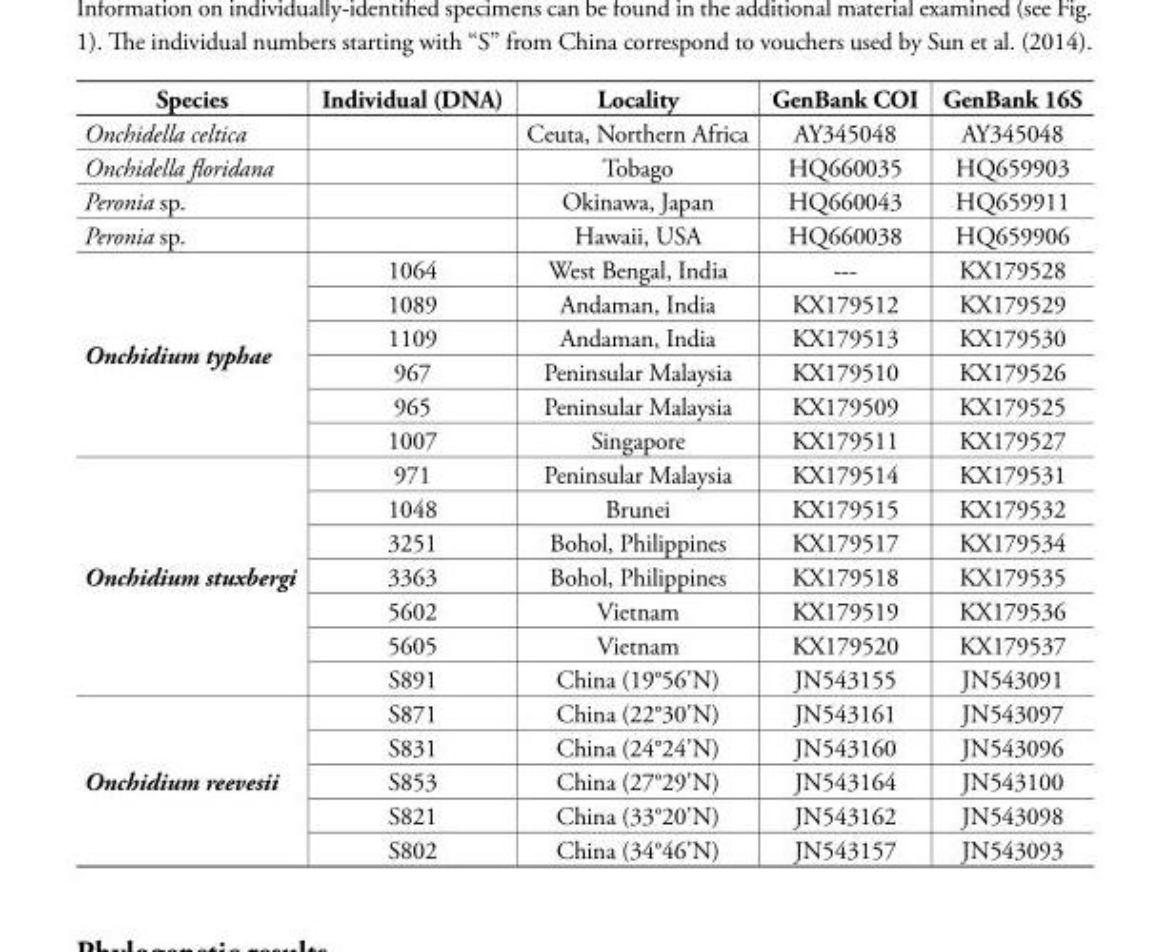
<table><thead><tr><td>Species</td><td>Individual (DNA)</td><td>Locality</td><td>GenBank COI</td><td>GenBank 16S</td></tr></thead><tbody><tr><td>Onchidella celtica</td><td></td><td>Ceuta, Northern Africa</td><td>AY345048</td><td>AY345048</td></tr><tr><td>Onchidella floridana</td><td></td><td>Tobago</td><td>HQ660035</td><td>HQ659903</td></tr><tr><td>Peronia sp.</td><td></td><td>Okinawa, Japan</td><td>HQ660043</td><td>HQ659911</td></tr><tr><td>Peronia sp.</td><td></td><td>Hawaii, USA</td><td>HQ660038</td><td>HQ659906</td></tr><tr><td rowspan="6">Onchidium typhae</td><td>1064</td><td>West Bengal, India</td><td>---</td><td>KX179528</td></tr><tr><td>1089</td><td>Andaman, India</td><td>KX179512</td><td>KX179529</td></tr><tr><td>1109</td><td>Andaman, India</td><td>KX179513</td><td>KX179530</td></tr><tr><td>967</td><td>Peninsular Malaysia</td><td>KX179510</td><td>KX179526</td></tr><tr><td>965</td><td>Peninsular Malaysia</td><td>KX179509</td><td>KX179525</td></tr><tr><td>1007</td><td>Singapore</td><td>KX179511</td><td>KX179527</td></tr><tr><td rowspan="7">Onchidium stuxbergi</td><td>971</td><td>Peninsular Malaysia</td><td>KX179514</td><td>KX179531</td></tr><tr><td>1048</td><td>Brunei</td><td>KX179515</td><td>KX179532</td></tr><tr><td>3251</td><td>Bohol, Philippines</td><td>KX179517</td><td>KX179534</td></tr><tr><td>3363</td><td>Bohol, Philippines</td><td>KX179518</td><td>KX179535</td></tr><tr><td>5602</td><td>Vietnam</td><td>KX179519</td><td>KX179536</td></tr><tr><td>5605</td><td>Vietnam</td><td>KX179520</td><td>KX179537</td></tr><tr><td>S891</td><td>China (19°56&#x27;N)</td><td>JN543155</td><td>JN543091</td></tr><tr><td rowspan="5">Onchidium reevesii</td><td>S871</td><td>China (22°30&#x27;N)</td><td>JN543161</td><td>JN543097</td></tr><tr><td>S831</td><td>China (24°24&#x27;N)</td><td>JN543160</td><td>JN543096</td></tr><tr><td>S853</td><td>China (27°29&#x27;N)</td><td>JN543164</td><td>JN543100</td></tr><tr><td>S821</td><td>China (33°20&#x27;N)</td><td>JN543162</td><td>JN543098</td></tr><tr><td>S802</td><td>China (34°46&#x27;N)</td><td>JN543157</td><td>JN543093</td></tr></tbody></table>